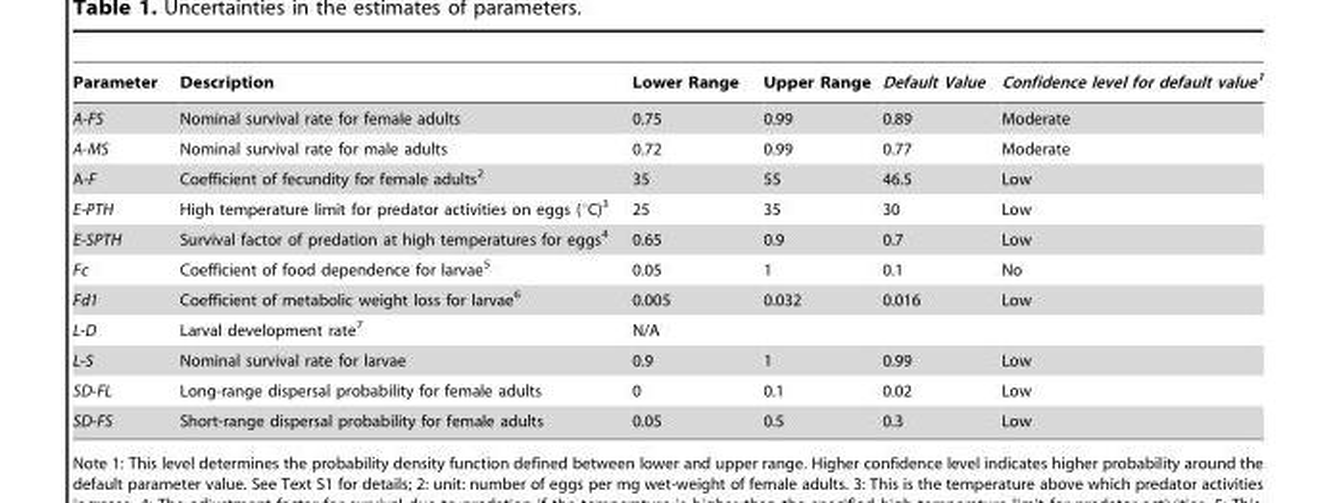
<table><thead><tr><td>Parameter</td><td>Description</td><td>Lower Range</td><td>Upper Range</td><td>Default Value</td><td>Confidence level for default value<sup>1</sup></td></tr></thead><tbody><tr><td>A-FS</td><td>Nominal survival rate for female adults</td><td>0.75</td><td>0.99</td><td>0.89</td><td>Moderate</td></tr><tr><td>A-MS</td><td>Nominal survival rate for male adults</td><td>0.72</td><td>0.99</td><td>0.77</td><td>Moderate</td></tr><tr><td>A-F</td><td>Coefficient of fecundity for female adults<sup>2</sup></td><td>35</td><td>55</td><td>46.5</td><td>Low</td></tr><tr><td>E-PTH</td><td>High temperature limit for predator activities on eggs (°C)<sup>3</sup></td><td>25</td><td>35</td><td>30</td><td>Low</td></tr><tr><td>E-SPTH</td><td>Survival factor of predation at high temperatures for eggs<sup>4</sup></td><td>0.65</td><td>0.9</td><td>0.7</td><td>Low</td></tr><tr><td>Fc</td><td>Coefficient of food dependence for larvae<sup>5</sup></td><td>0.05</td><td>1</td><td>0.1</td><td>No</td></tr><tr><td>Fd1</td><td>Coefficient of metabolic weight loss for larvae<sup>6</sup></td><td>0.005</td><td>0.032</td><td>0.016</td><td>Low</td></tr><tr><td>L-D</td><td>Larval development rate<sup>7</sup></td><td colspan="4">N/A</td></tr><tr><td>L-S</td><td>Nominal survival rate for larvae</td><td>0.9</td><td>1</td><td>0.99</td><td>Low</td></tr><tr><td>SD-FL</td><td>Long-range dispersal probability for female adults</td><td>0</td><td>0.1</td><td>0.02</td><td>Low</td></tr><tr><td>SD-FS</td><td>Short-range dispersal probability for female adults</td><td>0.05</td><td>0.5</td><td>0.3</td><td>Low</td></tr></tbody></table>